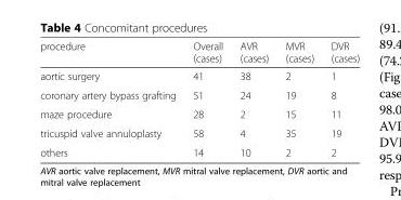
<table><thead><tr><td>procedure</td><td>Overall (cases)</td><td>AVR (cases)</td><td>MVR (cases)</td><td>DVR (cases)</td></tr></thead><tbody><tr><td>aortic surgery</td><td>41</td><td>38</td><td>2</td><td>1</td></tr><tr><td>coronary artery bypass grafting</td><td>51</td><td>24</td><td>19</td><td>8</td></tr><tr><td>maze procedure</td><td>28</td><td>2</td><td>15</td><td>11</td></tr><tr><td>tricuspid valve annuloplasty</td><td>58</td><td>4</td><td>35</td><td>19</td></tr><tr><td>others</td><td>14</td><td>10</td><td>2</td><td>2</td></tr></tbody></table>